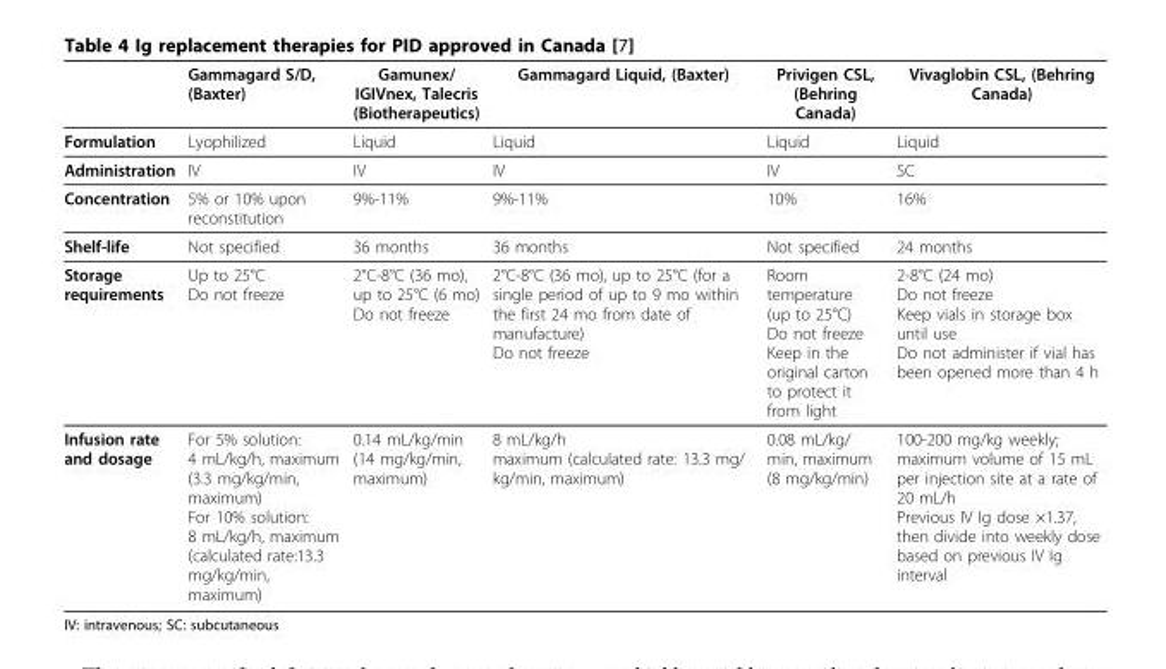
<table><thead><tr><td></td><td>Gammagard S/D, (Baxter)</td><td>Gamunex/ IGIVnex, Talecris (Biotherapeutics)</td><td>Gammagard Liquid, (Baxter)</td><td>Privigen CSL, (Behring Canada)</td><td>Vivaglobin CSL, (Behring Canada)</td></tr></thead><tbody><tr><td>Formulation</td><td>Lyophilized</td><td>Liquid</td><td>Liquid</td><td>Liquid</td><td>Liquid</td></tr><tr><td>Administration</td><td>IV</td><td>IV</td><td>IV</td><td>IV</td><td>SC</td></tr><tr><td>Concentration</td><td>5% or 10% upon reconstitution</td><td>9%-11%</td><td>9%-11%</td><td>10%</td><td>16%</td></tr><tr><td>Shelf-life</td><td>Not specified</td><td>36 months</td><td>36 months</td><td>Not specified</td><td>24 months</td></tr><tr><td>Storage requirements</td><td>Up to 25°C Do not freeze</td><td>2°C-8°C (36 mo), up to 25°C (6 mo) Do not freeze</td><td>2°C-8°C (36 mo), up to 25°C (for a single period of up to 9 mo within the first 24 mo from date of manufacture) Do not freeze</td><td>Room temperature (up to 25°C) Do not freeze Keep in the original carton to protect it from light</td><td>2-8°C (24 mo) Do not freeze Keep vials in storage box until use Do not administer if vial has been opened more than 4 h</td></tr><tr><td>Infusion rate and dosage</td><td>For 5% solution: 4 mL/kg/h, maximum (3.3 mg/kg/min, maximum) For 10% solution: 8 mL/kg/h, maximum (calculated rate:13.3 mg/kg/min, maximum)</td><td>0.14 mL/kg/min (14 mg/kg/min, maximum)</td><td>8 mL/kg/h maximum (calculated rate: 13.3 mg/ kg/min, maximum)</td><td>0.08 mL/kg/ min, maximum (8 mg/kg/min)</td><td>100-200 mg/kg weekly; maximum volume of 15 mL per injection site at a rate of 20 mL/h Previous IV Ig dose ×1.37, then divide into weekly dose based on previous IV Ig interval</td></tr></tbody></table>